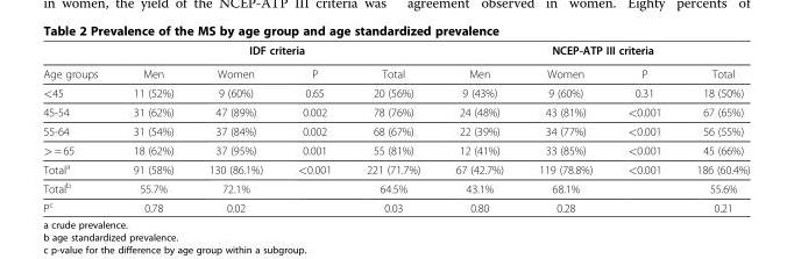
<table><thead><tr><td rowspan="2">Age groups</td><td colspan="4">IDF criteria</td><td colspan="4">NCEP-ATP III criteria</td></tr><tr><td>Men</td><td>Women</td><td>P</td><td>Total</td><td>Men</td><td>Women</td><td>P</td><td>Total</td></tr></thead><tbody><tr><td>&lt;45</td><td>11 (52%)</td><td>9 (60%)</td><td>0.65</td><td>20 (56%)</td><td>9 (43%)</td><td>9 (60%)</td><td>0.31</td><td>18 (50%)</td></tr><tr><td>45-54</td><td>31 (62%)</td><td>47 (89%)</td><td>0.002</td><td>78 (76%)</td><td>24 (48%)</td><td>43 (81%)</td><td>&lt;0.001</td><td>67 (65%)</td></tr><tr><td>55-64</td><td>31 (54%)</td><td>37 (84%)</td><td>0.002</td><td>68 (67%)</td><td>22 (39%)</td><td>34 (77%)</td><td>&lt;0.001</td><td>56 (55%)</td></tr><tr><td>&gt; = 65</td><td>18 (62%)</td><td>37 (95%)</td><td>0.001</td><td>55 (81%)</td><td>12 (41%)</td><td>33 (85%)</td><td>&lt;0.001</td><td>45 (66%)</td></tr><tr><td>Total<sup>a</sup></td><td>91 (58%)</td><td>130 (86.1%)</td><td>&lt;0.001</td><td>221 (71.7%)</td><td>67 (42.7%)</td><td>119 (78.8%)</td><td>&lt;0.001</td><td>186 (60.4%)</td></tr><tr><td>Total<sup>b</sup></td><td>55.7%</td><td>72.1%</td><td></td><td>64.5%</td><td>43.1%</td><td>68.1%</td><td></td><td>55.6%</td></tr><tr><td>P<sup>c</sup></td><td>0.78</td><td>0.02</td><td></td><td>0.03</td><td>0.80</td><td>0.28</td><td></td><td>0.21</td></tr></tbody></table>